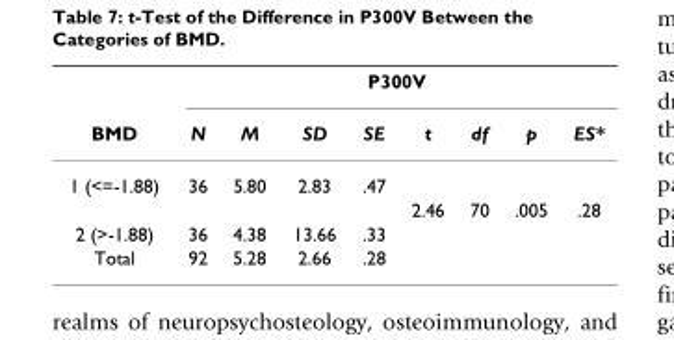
<table><thead><tr><td rowspan="2">BMD</td><td colspan="8">P300V</td></tr><tr><td>N</td><td>M</td><td>SD</td><td>SE</td><td>t</td><td>df</td><td>p</td><td>ES*</td></tr></thead><tbody><tr><td rowspan="2">1 (&lt;=-1.88)</td><td>36</td><td>5.80</td><td>2.83</td><td>.47</td><td></td><td></td><td></td><td></td></tr><tr><td></td><td></td><td></td><td></td><td>2.46</td><td>70</td><td>.005</td><td>.28</td></tr><tr><td>2 (&gt;-1.88)</td><td>36</td><td>4.38</td><td>13.66</td><td>.33</td><td></td><td></td><td></td><td></td></tr><tr><td>Total</td><td>92</td><td>5.28</td><td>2.66</td><td>.28</td><td></td><td></td><td></td><td></td></tr></tbody></table>